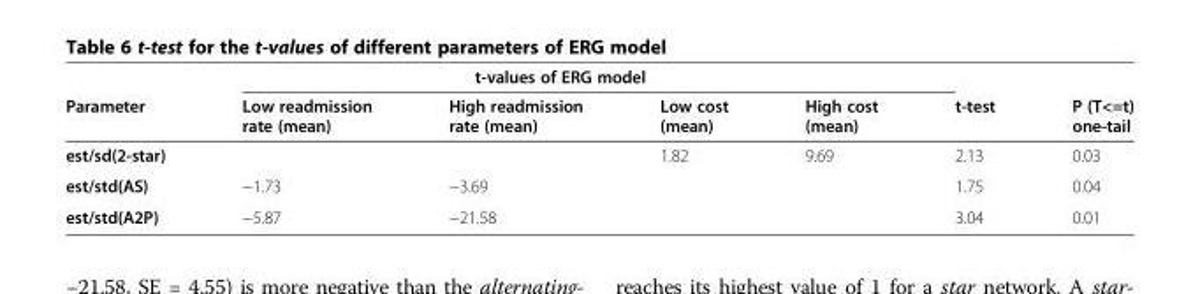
<table><thead><tr><td rowspan="2">Parameter</td><td colspan="4">t-values of ERG model</td><td rowspan="2">t-test</td><td rowspan="2">P (T&lt;=t) one-tail</td></tr><tr><td>Low readmission rate (mean)</td><td>High readmission rate (mean)</td><td>Low cost (mean)</td><td>High cost (mean)</td></tr></thead><tbody><tr><td>est/sd(2-star)</td><td></td><td></td><td>1.82</td><td>9.69</td><td>2.13</td><td>0.03</td></tr><tr><td>est/std(AS)</td><td>−1.73</td><td>−3.69</td><td></td><td></td><td>1.75</td><td>0.04</td></tr><tr><td>est/std(A2P)</td><td>−5.87</td><td>−21.58</td><td></td><td></td><td>3.04</td><td>0.01</td></tr></tbody></table>